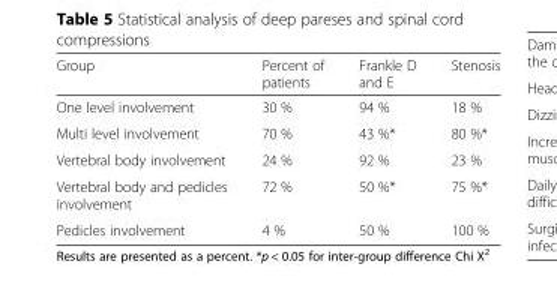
<table><thead><tr><td>Group</td><td>Percent of patients</td><td>Frankle D and E</td><td>Stenosis</td></tr></thead><tbody><tr><td>One level involvement</td><td>30 %</td><td>94 %</td><td>18 %</td></tr><tr><td>Multi level involvement</td><td>70 %</td><td>43 %*</td><td>80 %*</td></tr><tr><td>Vertebral body involvement</td><td>24 %</td><td>92 %</td><td>23 %</td></tr><tr><td>Vertebral body and pedicles involvement</td><td>72 %</td><td>50 %*</td><td>75 %*</td></tr><tr><td>Pedicles involvement</td><td>4 %</td><td>50 %</td><td>100 %</td></tr></tbody></table>